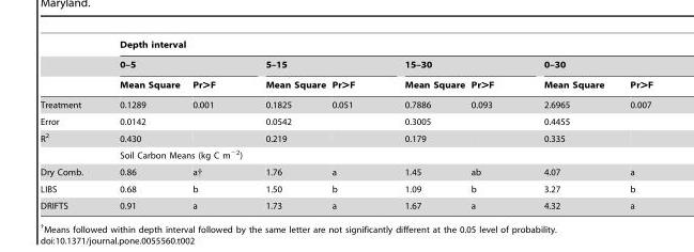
<table><thead><tr><td rowspan="3"></td><td colspan="8">Depth interval</td></tr><tr><td colspan="2">0–5</td><td colspan="2">5–15</td><td colspan="2">15–30</td><td colspan="2">0–30</td></tr><tr><td>Mean Square</td><td>Pr&gt;F</td><td>Mean Square</td><td>Pr&gt;F</td><td>Mean Square</td><td>Pr&gt;F</td><td>Mean Square</td><td>Pr&gt;F</td></tr></thead><tbody><tr><td>Treatment</td><td>0.1289</td><td>0.001</td><td>0.1825</td><td>0.051</td><td>0.7886</td><td>0.093</td><td>2.6965</td><td>0.007</td></tr><tr><td>Error</td><td>0.0142</td><td></td><td>0.0542</td><td></td><td>0.3005</td><td></td><td>0.4455</td><td></td></tr><tr><td rowspan="2">R<sup>2</sup></td><td>0.430</td><td></td><td>0.219</td><td></td><td>0.179</td><td></td><td>0.335</td><td></td></tr><tr><td colspan="8">Soil Carbon Means (kg C m<sup>−2</sup>)</td></tr><tr><td>Dry Comb.</td><td>0.86</td><td>a†</td><td>1.76</td><td>a</td><td>1.45</td><td>ab</td><td>4.07</td><td>a</td></tr><tr><td>LIBS</td><td>0.68</td><td>b</td><td>1.50</td><td>b</td><td>1.09</td><td>b</td><td>3.27</td><td>b</td></tr><tr><td>DRIFTS</td><td>0.91</td><td>a</td><td>1.73</td><td>a</td><td>1.67</td><td>a</td><td>4.32</td><td>a</td></tr></tbody></table>